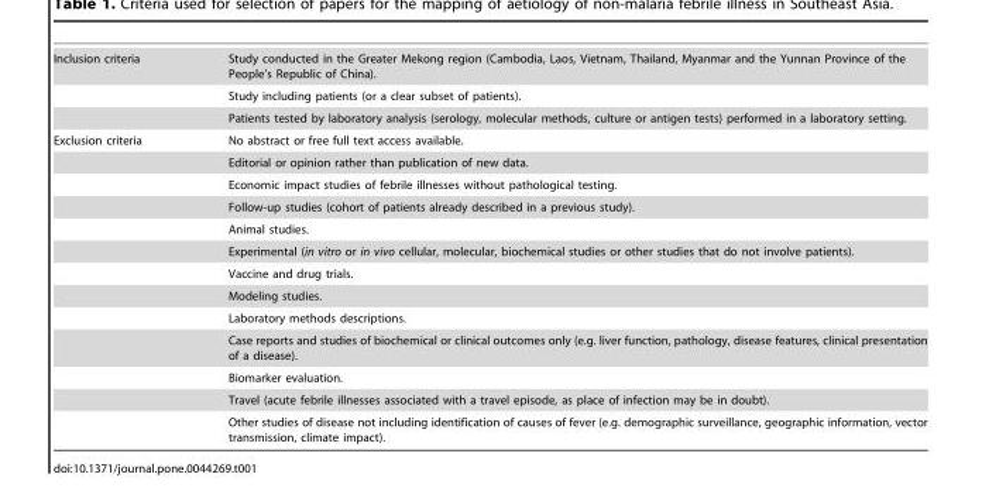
<table><tbody><tr><td rowspan="3">Inclusion criteria</td><td>Study conducted in the Greater Mekong region (Cambodia, Laos, Vietnam, Thailand, Myanmar and the Yunnan Province of the People’s Republic of China).</td></tr><tr><td>Study including patients (or a clear subset of patients).</td></tr><tr><td>Patients tested by laboratory analysis (serology, molecular methods, culture or antigen tests) performed in a laboratory setting.</td></tr><tr><td rowspan="13">Exclusion criteria</td><td>No abstract or free full text access available.</td></tr><tr><td>Editorial or opinion rather than publication of new data.</td></tr><tr><td>Economic impact studies of febrile illnesses without pathological testing.</td></tr><tr><td>Follow-up studies (cohort of patients already described in a previous study).</td></tr><tr><td>Animal studies.</td></tr><tr><td>Experimental (in vitro or in vivo cellular, molecular, biochemical studies or other studies that do not involve patients).</td></tr><tr><td>Vaccine and drug trials.</td></tr><tr><td>Modeling studies.</td></tr><tr><td>Laboratory methods descriptions.</td></tr><tr><td>Case reports and studies of biochemical or clinical outcomes only (e.g. liver function, pathology, disease features, clinical presentation of a disease).</td></tr><tr><td>Biomarker evaluation.</td></tr><tr><td>Travel (acute febrile illnesses associated with a travel episode, as place of infection may be in doubt).</td></tr><tr><td>Other studies of disease not including identification of causes of fever (e.g. demographic surveillance, geographic information, vector transmission, climate impact).</td></tr></tbody></table>